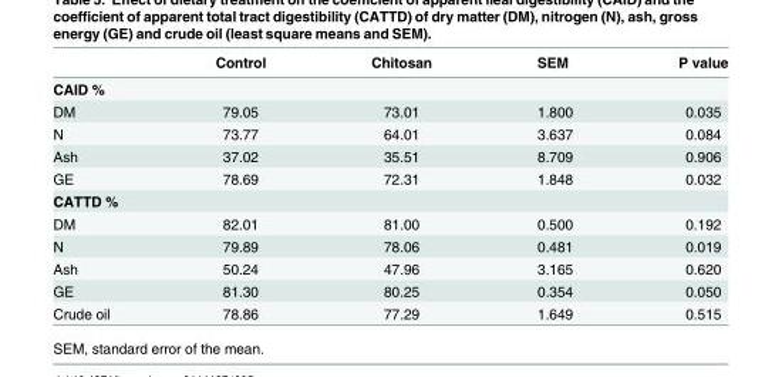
<table><thead><tr><td></td><td>Control</td><td>Chitosan</td><td>SEM</td><td>P value</td></tr></thead><tbody><tr><td colspan="5">CAID %</td></tr><tr><td>DM</td><td>79.05</td><td>73.01</td><td>1.800</td><td>0.035</td></tr><tr><td>N</td><td>73.77</td><td>64.01</td><td>3.637</td><td>0.084</td></tr><tr><td>Ash</td><td>37.02</td><td>35.51</td><td>8.709</td><td>0.906</td></tr><tr><td>GE</td><td>78.69</td><td>72.31</td><td>1.848</td><td>0.032</td></tr><tr><td colspan="5">CATTD %</td></tr><tr><td>DM</td><td>82.01</td><td>81.00</td><td>0.500</td><td>0.192</td></tr><tr><td>N</td><td>79.89</td><td>78.06</td><td>0.481</td><td>0.019</td></tr><tr><td>Ash</td><td>50.24</td><td>47.96</td><td>3.165</td><td>0.620</td></tr><tr><td>GE</td><td>81.30</td><td>80.25</td><td>0.354</td><td>0.050</td></tr><tr><td>Crude oil</td><td>78.86</td><td>77.29</td><td>1.649</td><td>0.515</td></tr></tbody></table>